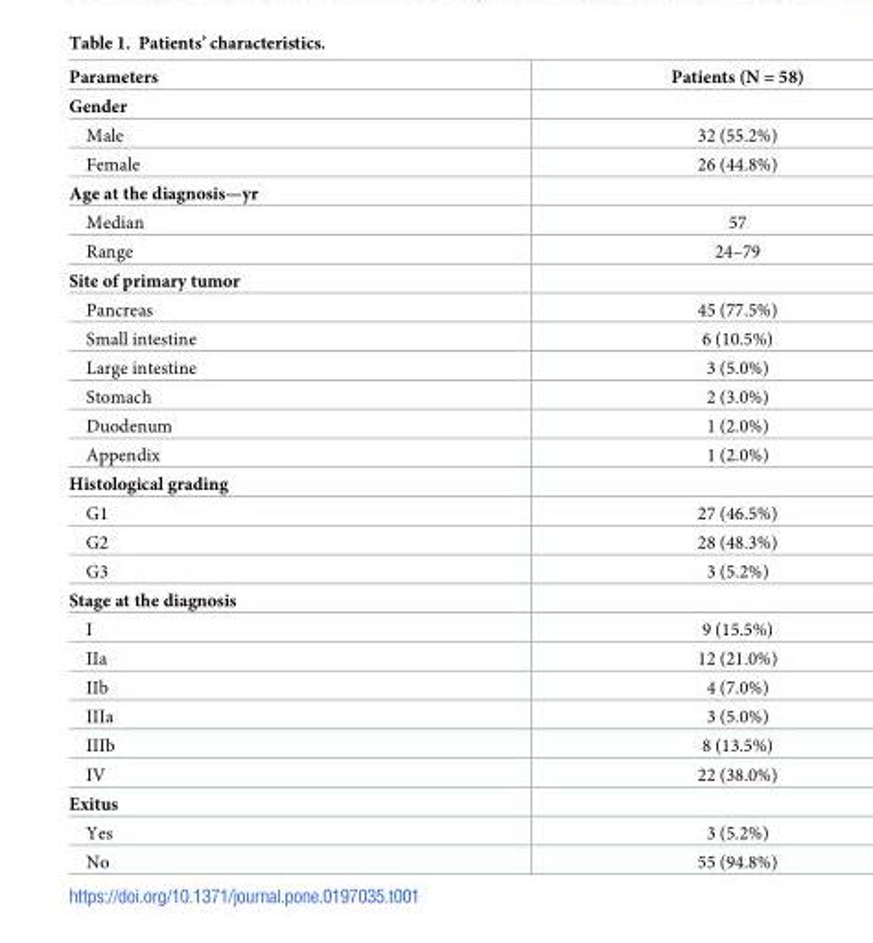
<table><thead><tr><td>Parameters</td><td>Patients (N = 58)</td></tr></thead><tbody><tr><td colspan="2">Gender</td></tr><tr><td>Male</td><td>32 (55.2%)</td></tr><tr><td>Female</td><td>26 (44.8%)</td></tr><tr><td colspan="2">Age at the diagnosis—yr</td></tr><tr><td>Median</td><td>57</td></tr><tr><td>Range</td><td>24–79</td></tr><tr><td colspan="2">Site of primary tumor</td></tr><tr><td>Pancreas</td><td>45 (77.5%)</td></tr><tr><td>Small intestine</td><td>6 (10.5%)</td></tr><tr><td>Large intestine</td><td>3 (5.0%)</td></tr><tr><td>Stomach</td><td>2 (3.0%)</td></tr><tr><td>Duodenum</td><td>1 (2.0%)</td></tr><tr><td>Appendix</td><td>1 (2.0%)</td></tr><tr><td colspan="2">Histological grading</td></tr><tr><td>G1</td><td>27 (46.5%)</td></tr><tr><td>G2</td><td>28 (48.3%)</td></tr><tr><td>G3</td><td>3 (5.2%)</td></tr><tr><td colspan="2">Stage at the diagnosis</td></tr><tr><td>I</td><td>9 (15.5%)</td></tr><tr><td>IIa</td><td>12 (21.0%)</td></tr><tr><td>IIb</td><td>4 (7.0%)</td></tr><tr><td>IIIa</td><td>3 (5.0%)</td></tr><tr><td>IIIb</td><td>8 (13.5%)</td></tr><tr><td>IV</td><td>22 (38.0%)</td></tr><tr><td colspan="2">Exitus</td></tr><tr><td>Yes</td><td>3 (5.2%)</td></tr><tr><td>No</td><td>55 (94.8%)</td></tr></tbody></table>